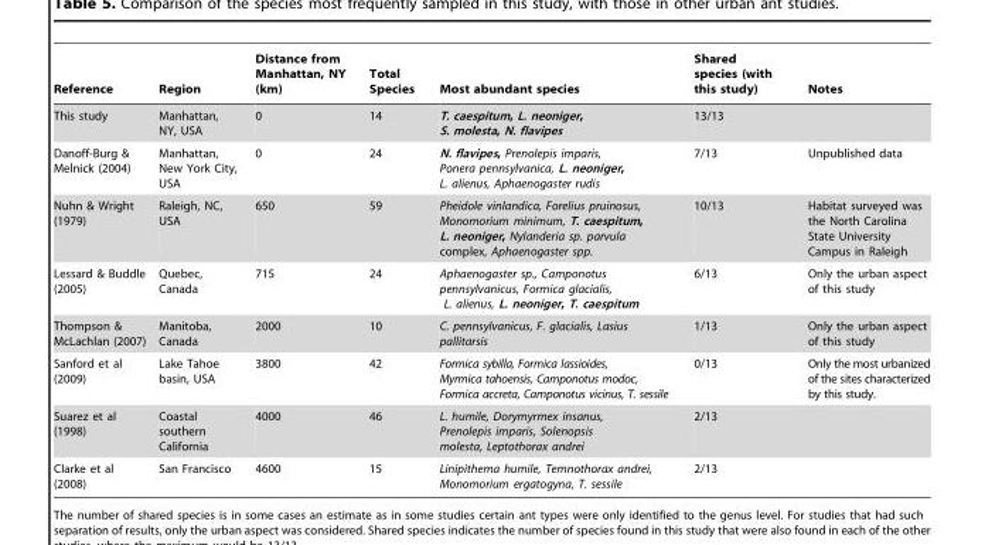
<table><thead><tr><td>Reference</td><td>Region</td><td>Distance from Manhattan, NY (km)</td><td>Total Species</td><td>Most abundant species</td><td>Shared species (with this study)</td><td>Notes</td></tr></thead><tbody><tr><td>This study</td><td>Manhattan, NY, USA</td><td>0</td><td>14</td><td>T. caespitum, L. neoniger, S. molesta, N. flavipes</td><td>13/13</td><td></td></tr><tr><td>Danoff-Burg &amp; Melnick (2004)</td><td>Manhattan, New York City, USA</td><td>0</td><td>24</td><td>N. flavipes, Prenolepis imparis, Ponera pennsylvanica, L. neoniger, L. alienus, Aphaenogaster rudis</td><td>7/13</td><td>Unpublished data</td></tr><tr><td>Nuhn &amp; Wright (1979)</td><td>Raleigh, NC, USA</td><td>650</td><td>59</td><td>Pheidole vinlandica, Forelius pruinosus, Monomorium minimum, T. caespitum, L. neoniger, Nylanderia sp. parvula complex, Aphaenogaster spp.</td><td>10/13</td><td>Habitat surveyed was the North Carolina State University Campus in Raleigh</td></tr><tr><td>Lessard &amp; Buddle (2005)</td><td>Quebec, Canada</td><td>715</td><td>24</td><td>Aphaenogaster sp., Camponotus pennsylvanicus, Formica glacialis, L. alienus, L. neoniger, T. caespitum</td><td>6/13</td><td>Only the urban aspect of this study</td></tr><tr><td>Thompson &amp; McLachlan (2007)</td><td>Manitoba, Canada</td><td>2000</td><td>10</td><td>C. pennsylvanicus, F. glacialis, Lasius pallitarsis</td><td>1/13</td><td>Only the urban aspect of this study</td></tr><tr><td>Sanford et al (2009)</td><td>Lake Tahoe basin, USA</td><td>3800</td><td>42</td><td>Formica sybilla, Formica lassioides, Myrmica tahoensis, Camponotus modoc, Formica accreta, Camponotus vicinus, T. sessile</td><td>0/13</td><td>Only the most urbanized of the sites characterized by this study.</td></tr><tr><td>Suarez et al (1998)</td><td>Coastal southern California</td><td>4000</td><td>46</td><td>L. humile, Dorymyrmex insanus, Prenolepis imparis, Solenopsis molesta, Leptothorax andrei</td><td>2/13</td><td></td></tr><tr><td>Clarke et al (2008)</td><td>San Francisco</td><td>4600</td><td>15</td><td>Linipithema humile, Temnothorax andrei, Monomorium ergatogyna, T. sessile</td><td>2/13</td><td></td></tr></tbody></table>